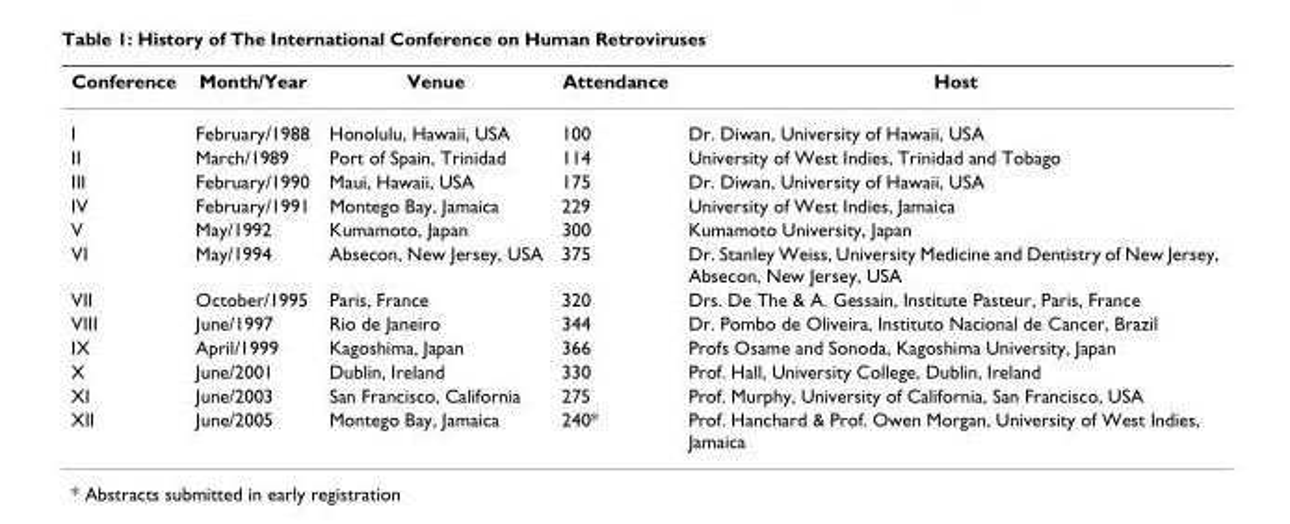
<table><thead><tr><td>Conference</td><td>Month/Year</td><td>Venue</td><td>Attendance</td><td>Host</td></tr></thead><tbody><tr><td>I</td><td>February/1988</td><td>Honolulu, Hawaii, USA</td><td>100</td><td>Dr. Diwan, University of Hawaii, USA</td></tr><tr><td>II</td><td>March/1989</td><td>Port of Spain, Trinidad</td><td>114</td><td>University of West Indies, Trinidad and Tobago</td></tr><tr><td>III</td><td>February/1990</td><td>Maui, Hawaii, USA</td><td>175</td><td>Dr. Diwan, University of Hawaii, USA</td></tr><tr><td>IV</td><td>February/1991</td><td>Montego Bay, Jamaica</td><td>229</td><td>University of West Indies, Jamaica</td></tr><tr><td>V</td><td>May/1992</td><td>Kumamoto, Japan</td><td>300</td><td>Kumamoto University, Japan</td></tr><tr><td>VI</td><td>May/1994</td><td>Absecon, New Jersey, USA</td><td>375</td><td>Dr. Stanley Weiss, University Medicine and Dentistry of New Jersey, Absecon, New Jersey, USA</td></tr><tr><td>VII</td><td>October/1995</td><td>Paris, France</td><td>320</td><td>Drs. De The &amp; A. Gessain, Institute Pasteur, Paris, France</td></tr><tr><td>VIII</td><td>June/1997</td><td>Rio de Janeiro</td><td>344</td><td>Dr. Pombo de Oliveira, Instituto Nacional de Cancer, Brazil</td></tr><tr><td>IX</td><td>April/1999</td><td>Kagoshima, Japan</td><td>366</td><td>Profs Osame and Sonoda, Kagoshima University, Japan</td></tr><tr><td>X</td><td>June/2001</td><td>Dublin, Ireland</td><td>330</td><td>Prof. Hall, University College, Dublin, Ireland</td></tr><tr><td>XI</td><td>June/2003</td><td>San Francisco, California</td><td>275</td><td>Prof. Murphy, University of California, San Francisco, USA</td></tr><tr><td>XII</td><td>June/2005</td><td>Montego Bay, Jamaica</td><td>240*</td><td>Prof. Hanchard &amp; Prof. Owen Morgan, University of West Indies, Jamaica</td></tr></tbody></table>